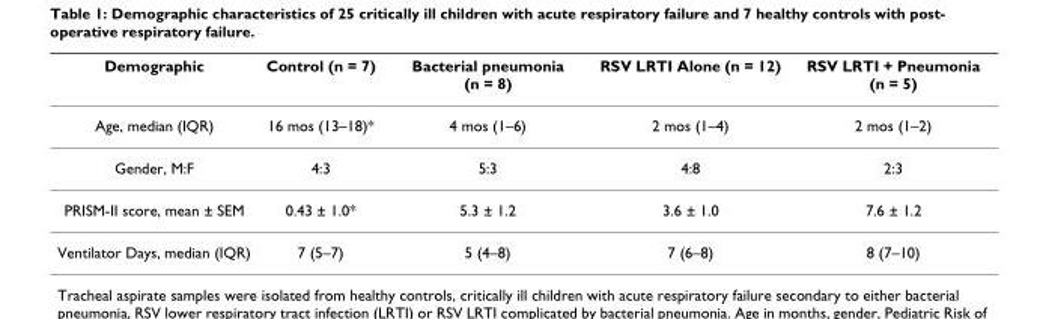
<table><thead><tr><td>Demographic</td><td>Control (n = 7)</td><td>Bacterial pneumonia (n = 8)</td><td>RSV LRTI Alone (n = 12)</td><td>RSV LRTI + Pneumonia (n = 5)</td></tr></thead><tbody><tr><td>Age, median (IQR)</td><td>16 mos (13–18)*</td><td>4 mos (1–6)</td><td>2 mos (1–4)</td><td>2 mos (1–2)</td></tr><tr><td>Gender, M:F</td><td>4:3</td><td>5:3</td><td>4:8</td><td>2:3</td></tr><tr><td>PRISM-II score, mean ± SEM</td><td>0.43 ± 1.0*</td><td>5.3 ± 1.2</td><td>3.6 ± 1.0</td><td>7.6 ± 1.2</td></tr><tr><td>Ventilator Days, median (IQR)</td><td>7 (5–7)</td><td>5 (4–8)</td><td>7 (6–8)</td><td>8 (7–10)</td></tr></tbody></table>